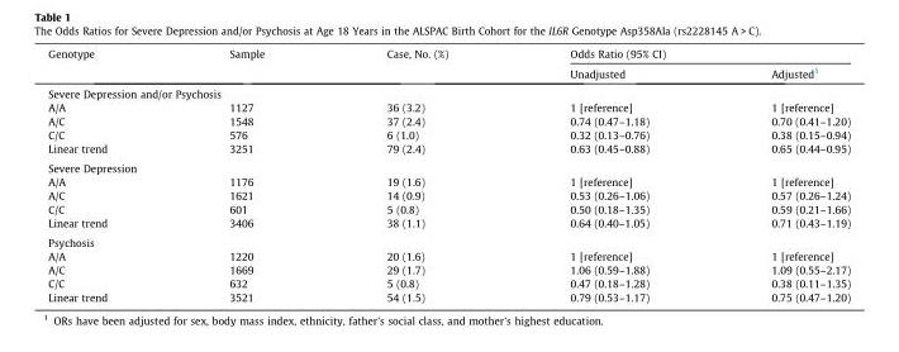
<table><thead><tr><td rowspan="2">Genotype</td><td rowspan="2">Sample</td><td rowspan="2">Case, No. (%)</td><td colspan="2">Odds Ratio (95% CI)</td></tr><tr><td>Unadjusted</td><td>Adjusted<sup>1</sup></td></tr></thead><tbody><tr><td colspan="5">Severe Depression and/or Psychosis</td></tr><tr><td>A/A</td><td>1127</td><td>36 (3.2)</td><td>1 [reference]</td><td>1 [reference]</td></tr><tr><td>A/C</td><td>1548</td><td>37 (2.4)</td><td>0.74 (0.47–1.18)</td><td>0.70 (0.41–1.20)</td></tr><tr><td>C/C</td><td>576</td><td>6 (1.0)</td><td>0.32 (0.13–0.76)</td><td>0.38 (0.15–0.94)</td></tr><tr><td>Linear trend</td><td>3251</td><td>79 (2.4)</td><td>0.63 (0.45–0.88)</td><td>0.65 (0.44–0.95)</td></tr><tr><td colspan="5">Severe Depression</td></tr><tr><td>A/A</td><td>1176</td><td>19 (1.6)</td><td>1 [reference]</td><td>1 [reference]</td></tr><tr><td>A/C</td><td>1621</td><td>14 (0.9)</td><td>0.53 (0.26–1.06)</td><td>0.57 (0.26–1.24)</td></tr><tr><td>C/C</td><td>601</td><td>5 (0.8)</td><td>0.50 (0.18–1.35)</td><td>0.59 (0.21–1.66)</td></tr><tr><td>Linear trend</td><td>3406</td><td>38 (1.1)</td><td>0.64 (0.40–1.05)</td><td>0.71 (0.43–1.19)</td></tr><tr><td colspan="5">Psychosis</td></tr><tr><td>A/A</td><td>1220</td><td>20 (1.6)</td><td>1 [reference]</td><td>1 [reference]</td></tr><tr><td>A/C</td><td>1669</td><td>29 (1.7)</td><td>1.06 (0.59–1.88)</td><td>1.09 (0.55–2.17)</td></tr><tr><td>C/C</td><td>632</td><td>5 (0.8)</td><td>0.47 (0.18–1.28)</td><td>0.38 (0.11–1.35)</td></tr><tr><td>Linear trend</td><td>3521</td><td>54 (1.5)</td><td>0.79 (0.53–1.17)</td><td>0.75 (0.47–1.20)</td></tr></tbody></table>